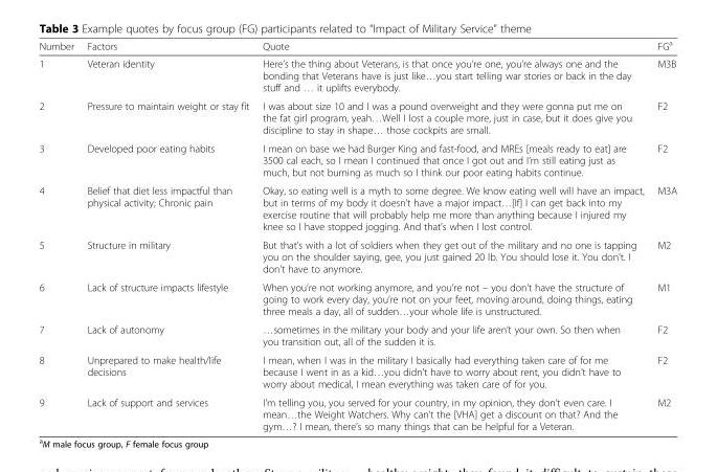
<table><thead><tr><td>Number</td><td>Factors</td><td>Quote</td><td>FG<sup>a</sup></td></tr></thead><tbody><tr><td>1</td><td>Veteran identity</td><td>Here’s the thing about Veterans, is that once you’re one, you’re always one and the bonding that Veterans have is just like…you start telling war stories or back in the day stuff and … it uplifts everybody.</td><td>M3B</td></tr><tr><td>2</td><td>Pressure to maintain weight or stay fit</td><td>I was about size 10 and I was a pound overweight and they were gonna put me on the fat girl program, yeah…Well I lost a couple more, just in case, but it does give you discipline to stay in shape… those cockpits are small.</td><td>F2</td></tr><tr><td>3</td><td>Developed poor eating habits</td><td>I mean on base we had Burger King and fast-food, and MREs [meals ready to eat] are 3500 cal each, so I mean I continued that once I got out and I’m still eating just as much, but not burning as much so I think our poor eating habits continue.</td><td>F2</td></tr><tr><td>4</td><td>Belief that diet less impactful than physical activity; Chronic pain</td><td>Okay, so eating well is a myth to some degree. We know eating well will have an impact, but in terms of my body it doesn’t have a major impact…[If] I can get back into my exercise routine that will probably help me more than anything because I injured my knee so I have stopped jogging. And that’s when I lost control.</td><td>M3A</td></tr><tr><td>5</td><td>Structure in military</td><td>But that’s with a lot of soldiers when they get out of the military and no one is tapping you on the shoulder saying, gee, you just gained 20 lb. You should lose it. You don’t. I don’t have to anymore.</td><td>M2</td></tr><tr><td>6</td><td>Lack of structure impacts lifestyle</td><td>When you’re not working anymore, and you’re not – you don’t have the structure of going to work every day, you’re not on your feet, moving around, doing things, eating three meals a day, all of sudden…your whole life is unstructured.</td><td>M1</td></tr><tr><td>7</td><td>Lack of autonomy</td><td>…sometimes in the military your body and your life aren’t your own. So then when you transition out, all of the sudden it is.</td><td>F2</td></tr><tr><td>8</td><td>Unprepared to make health/life decisions</td><td>I mean, when I was in the military I basically had everything taken care of for me because I went in as a kid…you didn’t have to worry about rent, you didn’t have to worry about medical, I mean everything was taken care of for you.</td><td>F2</td></tr><tr><td>9</td><td>Lack of support and services</td><td>I’m telling you, you served for your country, in my opinion, they don’t even care. I mean…the Weight Watchers. Why can’t the [VHA] get a discount on that? And the gym…? I mean, there’s so many things that can be helpful for a Veteran.</td><td>M2</td></tr></tbody></table>